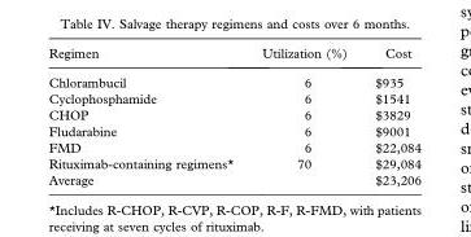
<table><thead><tr><td>Regimen</td><td>Utilization (%)</td><td>Cost</td></tr></thead><tbody><tr><td>Chlorambucil</td><td>6</td><td>$935</td></tr><tr><td>Cyclophosphamide</td><td>6</td><td>$1541</td></tr><tr><td>CHOP</td><td>6</td><td>$3829</td></tr><tr><td>Fludarabine</td><td>6</td><td>$9001</td></tr><tr><td>FMD</td><td>6</td><td>$22,084</td></tr><tr><td>Rituximab-containing regimens*</td><td>70</td><td>$29,084</td></tr><tr><td>Average</td><td></td><td>$23,206</td></tr></tbody></table>